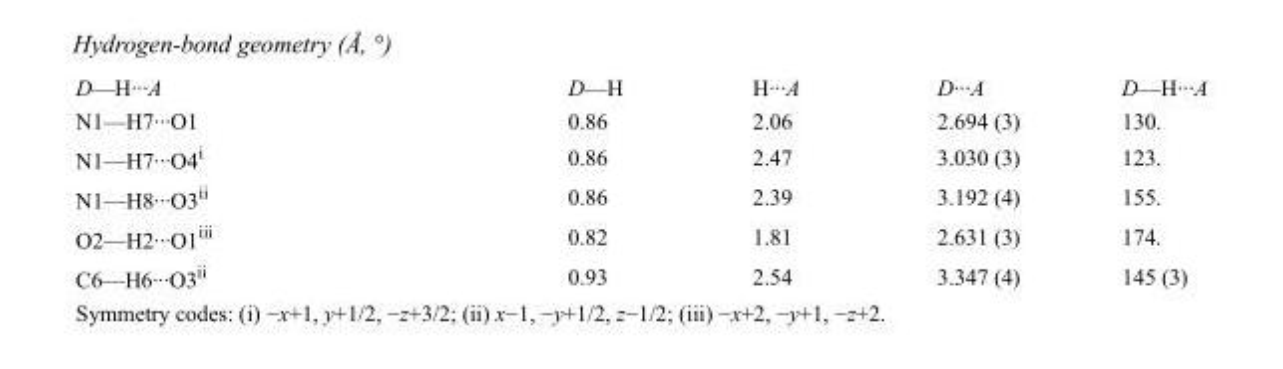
<table><tbody><tr><td>D—H···A</td><td>D—H</td><td>H···A</td><td>D···A</td><td>D—H···A</td></tr><tr><td>N1—H7···O1</td><td>0.86</td><td>2.06</td><td>2.694 (3)</td><td>130.</td></tr><tr><td>N1—H7···O4<sup>i</sup></td><td>0.86</td><td>2.47</td><td>3.030 (3)</td><td>123.</td></tr><tr><td>N1—H8···O3<sup>ii</sup></td><td>0.86</td><td>2.39</td><td>3.192 (4)</td><td>155.</td></tr><tr><td>O2—H2···O1<sup>iii</sup></td><td>0.82</td><td>1.81</td><td>2.631 (3)</td><td>174.</td></tr><tr><td>C6—H6···O3<sup>ii</sup></td><td>0.93</td><td>2.54</td><td>3.347 (4)</td><td>145 (3)</td></tr></tbody></table>